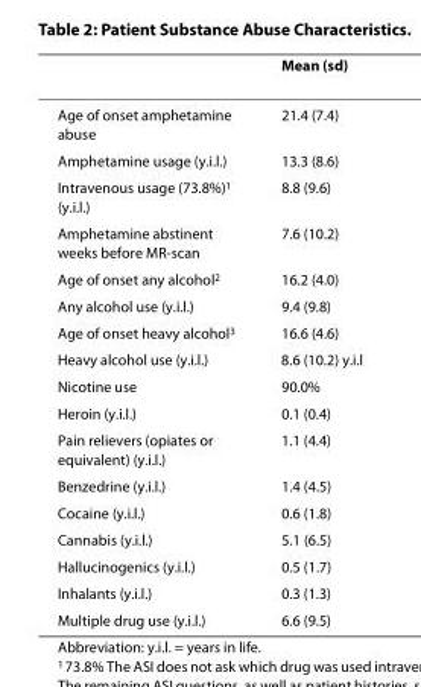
<table><thead><tr><td></td><td>Mean (sd)</td></tr></thead><tbody><tr><td>Age of onset amphetamine abuse</td><td>21.4 (7.4)</td></tr><tr><td>Amphetamine usage (y.i.l.)</td><td>13.3 (8.6)</td></tr><tr><td>Intravenous usage (73.8%)<sup>1</sup> (y.i.l.)</td><td>8.8 (9.6)</td></tr><tr><td>Amphetamine abstinent weeks before MR-scan</td><td>7.6 (10.2)</td></tr><tr><td>Age of onset any alcohol<sup>2</sup></td><td>16.2 (4.0)</td></tr><tr><td>Any alcohol use (y.i.l.)</td><td>9.4 (9.8)</td></tr><tr><td>Age of onset heavy alcohol<sup>3</sup></td><td>16.6 (4.6)</td></tr><tr><td>Heavy alcohol use (y.i.l.)</td><td>8.6 (10.2) y.i.l</td></tr><tr><td>Nicotine use</td><td>90.0%</td></tr><tr><td>Heroin (y.i.l.)</td><td>0.1 (0.4)</td></tr><tr><td>Pain relievers (opiates or equivalent) (y.i.l.)</td><td>1.1 (4.4)</td></tr><tr><td>Benzedrine (y.i.l.)</td><td>1.4 (4.5)</td></tr><tr><td>Cocaine (y.i.l.)</td><td>0.6 (1.8)</td></tr><tr><td>Cannabis (y.i.l.)</td><td>5.1 (6.5)</td></tr><tr><td>Hallucinogenics (y.i.l.)</td><td>0.5 (1.7)</td></tr><tr><td>Inhalants (y.i.l.)</td><td>0.3 (1.3)</td></tr><tr><td>Multiple drug use (y.i.l.)</td><td>6.6 (9.5)</td></tr></tbody></table>